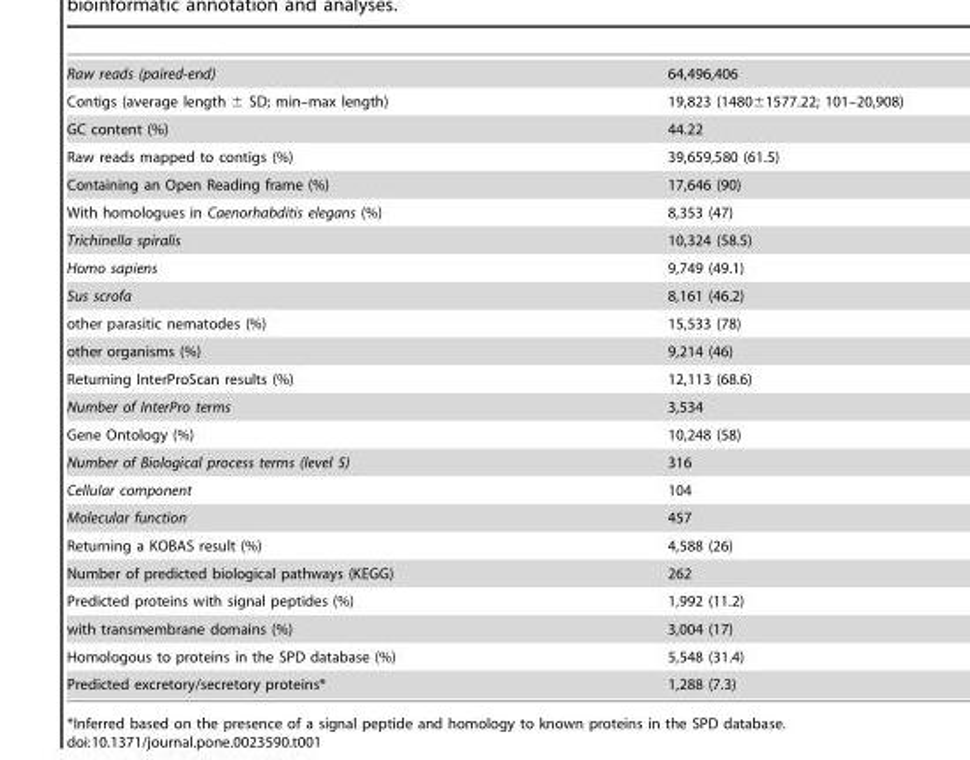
<table><tbody><tr><td>Raw reads (paired-end)</td><td>64,496,406</td></tr><tr><td>Contigs (average length ± SD; min–max length)</td><td>19,823 (1480±1577.22; 101–20,908)</td></tr><tr><td>GC content (%)</td><td>44.22</td></tr><tr><td>Raw reads mapped to contigs (%)</td><td>39,659,580 (61.5)</td></tr><tr><td>Containing an Open Reading frame (%)</td><td>17,646 (90)</td></tr><tr><td>With homologues in Caenorhabditis elegans (%)</td><td>8,353 (47)</td></tr><tr><td>Trichinella spiralis</td><td>10,324 (58.5)</td></tr><tr><td>Homo sapiens</td><td>9,749 (49.1)</td></tr><tr><td>Sus scrofa</td><td>8,161 (46.2)</td></tr><tr><td>other parasitic nematodes (%)</td><td>15,533 (78)</td></tr><tr><td>other organisms (%)</td><td>9,214 (46)</td></tr><tr><td>Returning InterProScan results (%)</td><td>12,113 (68.6)</td></tr><tr><td>Number of InterPro terms</td><td>3,534</td></tr><tr><td>Gene Ontology (%)</td><td>10,248 (58)</td></tr><tr><td>Number of Biological process terms (level 5)</td><td>316</td></tr><tr><td>Cellular component</td><td>104</td></tr><tr><td>Molecular function</td><td>457</td></tr><tr><td>Returning a KOBAS result (%)</td><td>4,588 (26)</td></tr><tr><td>Number of predicted biological pathways (KEGG)</td><td>262</td></tr><tr><td>Predicted proteins with signal peptides (%)</td><td>1,992 (11.2)</td></tr><tr><td>with transmembrane domains (%)</td><td>3,004 (17)</td></tr><tr><td>Homologous to proteins in the SPD database (%)</td><td>5,548 (31.4)</td></tr><tr><td>Predicted excretory/secretory proteins*</td><td>1,288 (7.3)</td></tr></tbody></table>